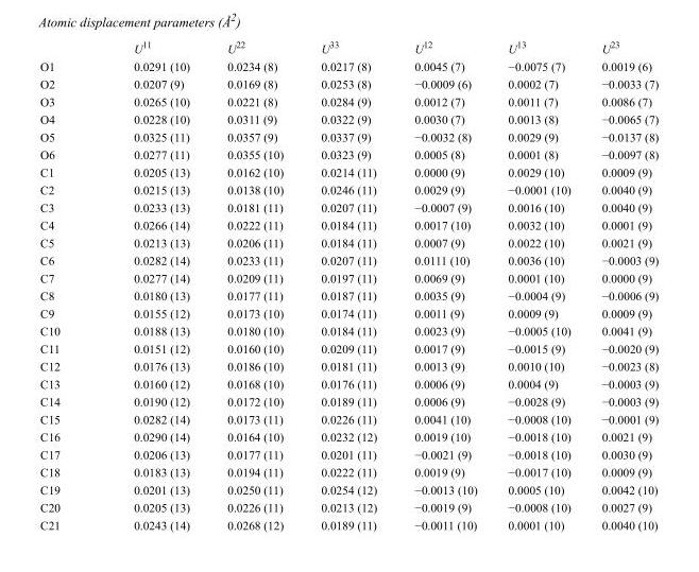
<table><thead><tr><td></td><td>U<sup>11</sup></td><td>U<sup>22</sup></td><td>U<sup>33</sup></td><td>U<sup>12</sup></td><td>U<sup>13</sup></td><td>U<sup>23</sup></td></tr></thead><tbody><tr><td>O1</td><td>0.0291 (10)</td><td>0.0234 (8)</td><td>0.0217 (8)</td><td>0.0045 (7)</td><td>−0.0075 (7)</td><td>0.0019 (6)</td></tr><tr><td>O2</td><td>0.0207 (9)</td><td>0.0169 (8)</td><td>0.0253 (8)</td><td>−0.0009 (6)</td><td>0.0002 (7)</td><td>−0.0033 (7)</td></tr><tr><td>O3</td><td>0.0265 (10)</td><td>0.0221 (8)</td><td>0.0284 (9)</td><td>0.0012 (7)</td><td>0.0011 (7)</td><td>0.0086 (7)</td></tr><tr><td>O4</td><td>0.0228 (10)</td><td>0.0311 (9)</td><td>0.0322 (9)</td><td>0.0030 (7)</td><td>0.0013 (8)</td><td>−0.0065 (7)</td></tr><tr><td>O5</td><td>0.0325 (11)</td><td>0.0357 (9)</td><td>0.0337 (9)</td><td>−0.0032 (8)</td><td>0.0029 (9)</td><td>−0.0137 (8)</td></tr><tr><td>O6</td><td>0.0277 (11)</td><td>0.0355 (10)</td><td>0.0323 (9)</td><td>0.0005 (8)</td><td>0.0001 (8)</td><td>−0.0097 (8)</td></tr><tr><td>C1</td><td>0.0205 (13)</td><td>0.0162 (10)</td><td>0.0214 (11)</td><td>0.0000 (9)</td><td>0.0029 (10)</td><td>0.0009 (9)</td></tr><tr><td>C2</td><td>0.0215 (13)</td><td>0.0138 (10)</td><td>0.0246 (11)</td><td>0.0029 (9)</td><td>−0.0001 (10)</td><td>0.0040 (9)</td></tr><tr><td>C3</td><td>0.0233 (13)</td><td>0.0181 (11)</td><td>0.0207 (11)</td><td>−0.0007 (9)</td><td>0.0016 (10)</td><td>0.0040 (9)</td></tr><tr><td>C4</td><td>0.0266 (14)</td><td>0.0222 (11)</td><td>0.0184 (11)</td><td>0.0017 (10)</td><td>0.0032 (10)</td><td>0.0001 (9)</td></tr><tr><td>C5</td><td>0.0213 (13)</td><td>0.0206 (11)</td><td>0.0184 (11)</td><td>0.0007 (9)</td><td>0.0022 (10)</td><td>0.0021 (9)</td></tr><tr><td>C6</td><td>0.0282 (14)</td><td>0.0233 (11)</td><td>0.0207 (11)</td><td>0.0111 (10)</td><td>0.0036 (10)</td><td>−0.0003 (9)</td></tr><tr><td>C7</td><td>0.0277 (14)</td><td>0.0209 (11)</td><td>0.0197 (11)</td><td>0.0069 (9)</td><td>0.0001 (10)</td><td>0.0000 (9)</td></tr><tr><td>C8</td><td>0.0180 (13)</td><td>0.0177 (11)</td><td>0.0187 (11)</td><td>0.0035 (9)</td><td>−0.0004 (9)</td><td>−0.0006 (9)</td></tr><tr><td>C9</td><td>0.0155 (12)</td><td>0.0173 (10)</td><td>0.0174 (11)</td><td>0.0011 (9)</td><td>0.0009 (9)</td><td>0.0009 (9)</td></tr><tr><td>C10</td><td>0.0188 (13)</td><td>0.0180 (10)</td><td>0.0184 (11)</td><td>0.0023 (9)</td><td>−0.0005 (10)</td><td>0.0041 (9)</td></tr><tr><td>C11</td><td>0.0151 (12)</td><td>0.0160 (10)</td><td>0.0209 (11)</td><td>0.0017 (9)</td><td>−0.0015 (9)</td><td>−0.0020 (9)</td></tr><tr><td>C12</td><td>0.0176 (13)</td><td>0.0186 (10)</td><td>0.0181 (11)</td><td>0.0013 (9)</td><td>0.0010 (10)</td><td>−0.0023 (8)</td></tr><tr><td>C13</td><td>0.0160 (12)</td><td>0.0168 (10)</td><td>0.0176 (11)</td><td>0.0006 (9)</td><td>0.0004 (9)</td><td>−0.0003 (9)</td></tr><tr><td>C14</td><td>0.0190 (12)</td><td>0.0172 (10)</td><td>0.0189 (11)</td><td>0.0006 (9)</td><td>−0.0028 (9)</td><td>−0.0003 (9)</td></tr><tr><td>C15</td><td>0.0282 (14)</td><td>0.0173 (11)</td><td>0.0226 (11)</td><td>0.0041 (10)</td><td>−0.0008 (10)</td><td>−0.0001 (9)</td></tr><tr><td>C16</td><td>0.0290 (14)</td><td>0.0164 (10)</td><td>0.0232 (12)</td><td>0.0019 (10)</td><td>−0.0018 (10)</td><td>0.0021 (9)</td></tr><tr><td>C17</td><td>0.0206 (13)</td><td>0.0177 (11)</td><td>0.0201 (11)</td><td>−0.0021 (9)</td><td>−0.0018 (10)</td><td>0.0030 (9)</td></tr><tr><td>C18</td><td>0.0183 (13)</td><td>0.0194 (11)</td><td>0.0222 (11)</td><td>0.0019 (9)</td><td>−0.0017 (10)</td><td>0.0009 (9)</td></tr><tr><td>C19</td><td>0.0201 (13)</td><td>0.0250 (11)</td><td>0.0254 (12)</td><td>−0.0013 (10)</td><td>0.0005 (10)</td><td>0.0042 (10)</td></tr><tr><td>C20</td><td>0.0205 (13)</td><td>0.0226 (11)</td><td>0.0213 (12)</td><td>−0.0019 (9)</td><td>−0.0008 (10)</td><td>0.0027 (9)</td></tr><tr><td>C21</td><td>0.0243 (14)</td><td>0.0268 (12)</td><td>0.0189 (11)</td><td>−0.0011 (10)</td><td>0.0001 (10)</td><td>0.0040 (10)</td></tr></tbody></table>